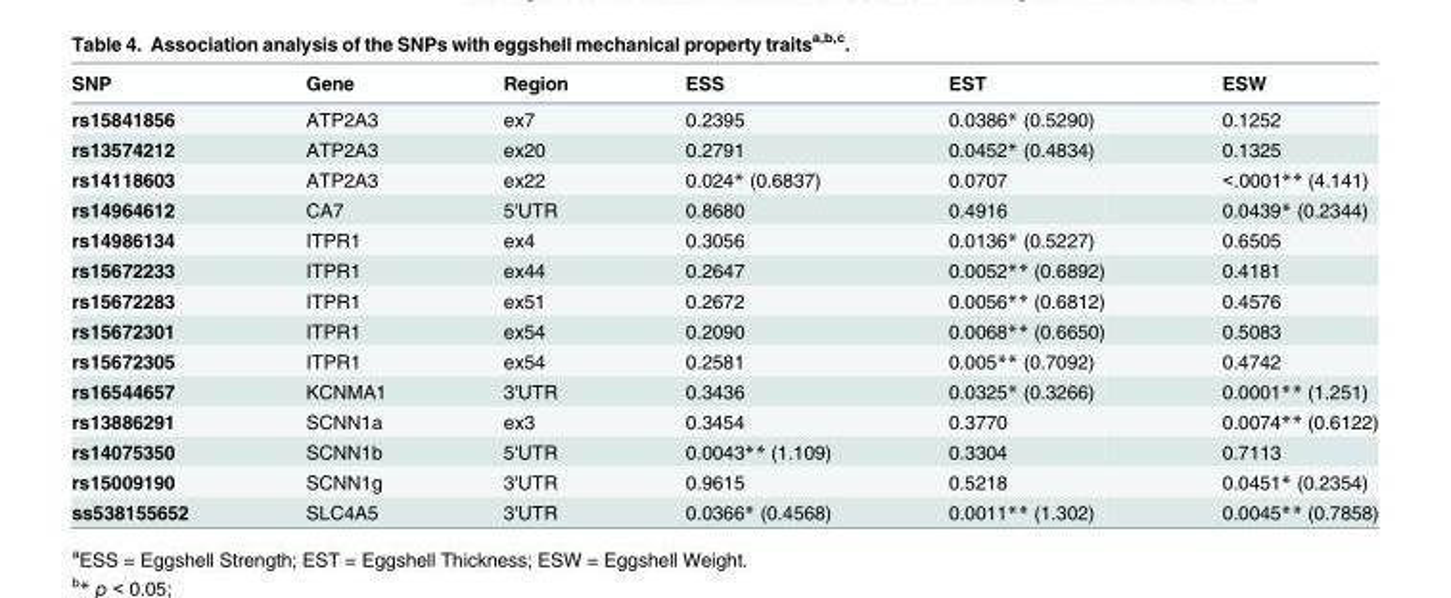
<table><thead><tr><td>SNP</td><td>Gene</td><td>Region</td><td>ESS</td><td>EST</td><td>ESW</td></tr></thead><tbody><tr><td>rs15841856</td><td>ATP2A3</td><td>ex7</td><td>0.2395</td><td>0.0386* (0.5290)</td><td>0.1252</td></tr><tr><td>rs13574212</td><td>ATP2A3</td><td>ex20</td><td>0.2791</td><td>0.0452* (0.4834)</td><td>0.1325</td></tr><tr><td>rs14118603</td><td>ATP2A3</td><td>ex22</td><td>0.024* (0.6837)</td><td>0.0707</td><td>&lt;.0001** (4.141)</td></tr><tr><td>rs14964612</td><td>CA7</td><td>5&#x27;UTR</td><td>0.8680</td><td>0.4916</td><td>0.0439* (0.2344)</td></tr><tr><td>rs14986134</td><td>ITPR1</td><td>ex4</td><td>0.3056</td><td>0.0136* (0.5227)</td><td>0.6505</td></tr><tr><td>rs15672233</td><td>ITPR1</td><td>ex44</td><td>0.2647</td><td>0.0052** (0.6892)</td><td>0.4181</td></tr><tr><td>rs15672283</td><td>ITPR1</td><td>ex51</td><td>0.2672</td><td>0.0056** (0.6812)</td><td>0.4576</td></tr><tr><td>rs15672301</td><td>ITPR1</td><td>ex54</td><td>0.2090</td><td>0.0068** (0.6650)</td><td>0.5083</td></tr><tr><td>rs15672305</td><td>ITPR1</td><td>ex54</td><td>0.2581</td><td>0.005** (0.7092)</td><td>0.4742</td></tr><tr><td>rs16544657</td><td>KCNMA1</td><td>3&#x27;UTR</td><td>0.3436</td><td>0.0325* (0.3266)</td><td>0.0001** (1.251)</td></tr><tr><td>rs13886291</td><td>SCNN1<sup>a</sup></td><td>ex3</td><td>0.3454</td><td>0.3770</td><td>0.0074** (0.6122)</td></tr><tr><td>rs14075350</td><td>SCNN1<sup>b</sup></td><td>5&#x27;UTR</td><td>0.0043** (1.109)</td><td>0.3304</td><td>0.7113</td></tr><tr><td>rs15009190</td><td>SCNN1g</td><td>3&#x27;UTR</td><td>0.9615</td><td>0.5218</td><td>0.0451* (0.2354)</td></tr><tr><td>ss538155652</td><td>SLC4A5</td><td>3&#x27;UTR</td><td>0.0366* (0.4568)</td><td>0.0011** (1.302)</td><td>0.0045** (0.7858)</td></tr></tbody></table>